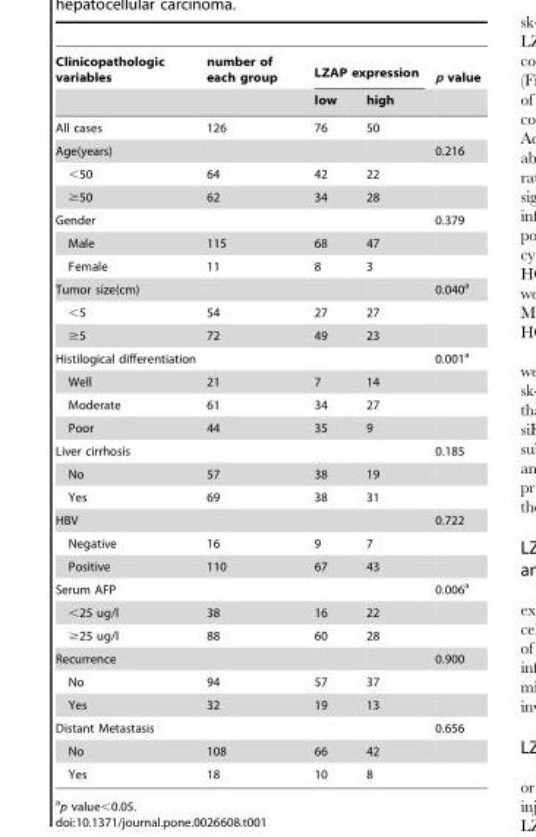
<table><thead><tr><td rowspan="2">Clinicopathologic variables</td><td rowspan="2">number of each group</td><td colspan="2">LZAP expression</td><td rowspan="2">p value</td></tr><tr><td>low</td><td>high</td></tr></thead><tbody><tr><td>All cases</td><td>126</td><td>76</td><td>50</td><td></td></tr><tr><td>Age(years)</td><td></td><td></td><td></td><td>0.216</td></tr><tr><td>&lt;50</td><td>64</td><td>42</td><td>22</td><td></td></tr><tr><td>≥50</td><td>62</td><td>34</td><td>28</td><td></td></tr><tr><td>Gender</td><td></td><td></td><td></td><td>0.379</td></tr><tr><td>Male</td><td>115</td><td>68</td><td>47</td><td></td></tr><tr><td>Female</td><td>11</td><td>8</td><td>3</td><td></td></tr><tr><td>Tumor size(cm)</td><td></td><td></td><td></td><td>0.040<sup>a</sup></td></tr><tr><td>&lt;5</td><td>54</td><td>27</td><td>27</td><td></td></tr><tr><td>≥5</td><td>72</td><td>49</td><td>23</td><td></td></tr><tr><td>Histilogical differentiation</td><td></td><td></td><td></td><td>0.001<sup>a</sup></td></tr><tr><td>Well</td><td>21</td><td>7</td><td>14</td><td></td></tr><tr><td>Moderate</td><td>61</td><td>34</td><td>27</td><td></td></tr><tr><td>Poor</td><td>44</td><td>35</td><td>9</td><td></td></tr><tr><td>Liver cirrhosis</td><td></td><td></td><td></td><td>0.185</td></tr><tr><td>No</td><td>57</td><td>38</td><td>19</td><td></td></tr><tr><td>Yes</td><td>69</td><td>38</td><td>31</td><td></td></tr><tr><td>HBV</td><td></td><td></td><td></td><td>0.722</td></tr><tr><td>Negative</td><td>16</td><td>9</td><td>7</td><td></td></tr><tr><td>Positive</td><td>110</td><td>67</td><td>43</td><td></td></tr><tr><td>Serum AFP</td><td></td><td></td><td></td><td>0.006<sup>a</sup></td></tr><tr><td>&lt;25 ug/l</td><td>38</td><td>16</td><td>22</td><td></td></tr><tr><td>≥25 ug/l</td><td>88</td><td>60</td><td>28</td><td></td></tr><tr><td>Recurrence</td><td></td><td></td><td></td><td>0.900</td></tr><tr><td>No</td><td>94</td><td>57</td><td>37</td><td></td></tr><tr><td>Yes</td><td>32</td><td>19</td><td>13</td><td></td></tr><tr><td>Distant Metastasis</td><td></td><td></td><td></td><td>0.656</td></tr><tr><td>No</td><td>108</td><td>66</td><td>42</td><td></td></tr><tr><td>Yes</td><td>18</td><td>10</td><td>8</td><td></td></tr></tbody></table>